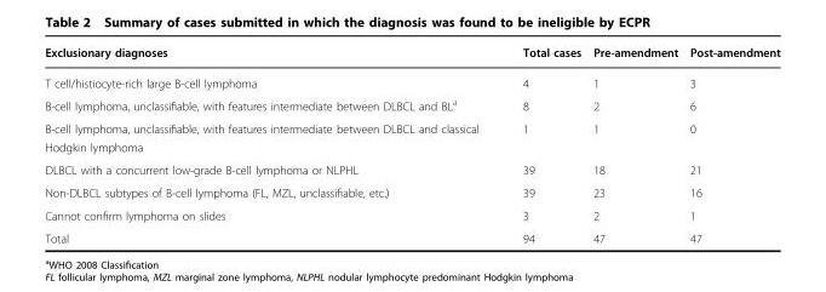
<table><thead><tr><td>Exclusionary diagnoses</td><td>Total cases</td><td>Pre-amendment</td><td>Post-amendment</td></tr></thead><tbody><tr><td>T cell/histiocyte-rich large B-cell lymphoma</td><td>4</td><td>1</td><td>3</td></tr><tr><td>B-cell lymphoma, unclassifiable, with features intermediate between DLBCL and BL<sup>a</sup></td><td>8</td><td>2</td><td>6</td></tr><tr><td>B-cell lymphoma, unclassifiable, with features intermediate between DLBCL and classical Hodgkin lymphoma</td><td>1</td><td>1</td><td>0</td></tr><tr><td>DLBCL with a concurrent low-grade B-cell lymphoma or NLPHL</td><td>39</td><td>18</td><td>21</td></tr><tr><td>Non-DLBCL subtypes of B-cell lymphoma (FL, MZL, unclassifiable, etc.)</td><td>39</td><td>23</td><td>16</td></tr><tr><td>Cannot confirm lymphoma on slides</td><td>3</td><td>2</td><td>1</td></tr><tr><td>Total</td><td>94</td><td>47</td><td>47</td></tr></tbody></table>